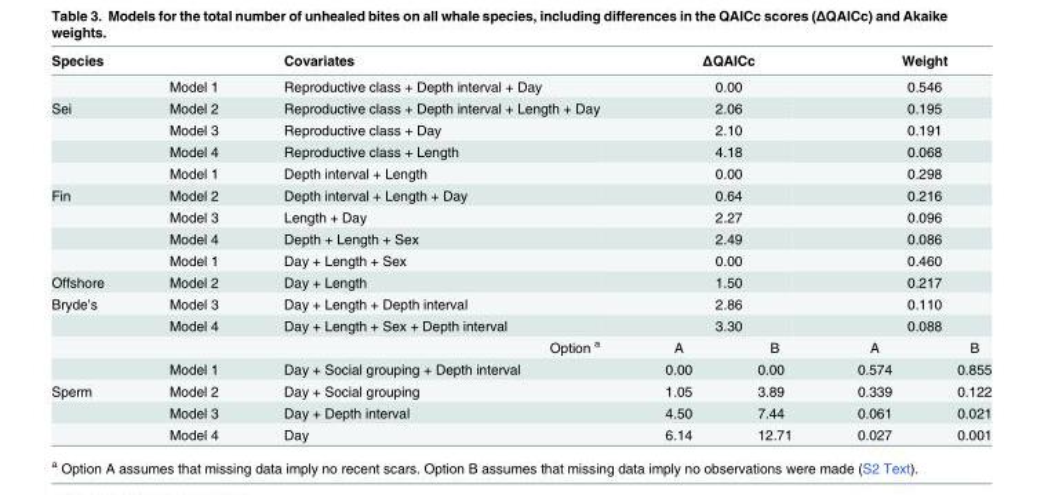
<table><thead><tr><td>Species</td><td></td><td>Covariates</td><td colspan="2">ΔQAICc</td><td colspan="2">Weight</td></tr></thead><tbody><tr><td></td><td>Model 1</td><td>Reproductive class + Depth interval + Day</td><td colspan="2">0.00</td><td colspan="2">0.546</td></tr><tr><td rowspan="4">Sei</td><td>Model 2</td><td>Reproductive class + Depth interval + Length + Day</td><td colspan="2">2.06</td><td colspan="2">0.195</td></tr><tr><td>Model 3</td><td>Reproductive class + Day</td><td colspan="2">2.10</td><td colspan="2">0.191</td></tr><tr><td>Model 4</td><td>Reproductive class + Length</td><td colspan="2">4.18</td><td colspan="2">0.068</td></tr><tr><td>Model 1</td><td>Depth interval + Length</td><td colspan="2">0.00</td><td colspan="2">0.298</td></tr><tr><td rowspan="4">Fin</td><td>Model 2</td><td>Depth interval + Length + Day</td><td colspan="2">0.64</td><td colspan="2">0.216</td></tr><tr><td>Model 3</td><td>Length + Day</td><td colspan="2">2.27</td><td colspan="2">0.096</td></tr><tr><td>Model 4</td><td>Depth + Length + Sex</td><td colspan="2">2.49</td><td colspan="2">0.086</td></tr><tr><td>Model 1</td><td>Day + Length + Sex</td><td colspan="2">0.00</td><td colspan="2">0.460</td></tr><tr><td>Offshore</td><td>Model 2</td><td>Day + Length</td><td colspan="2">1.50</td><td colspan="2">0.217</td></tr><tr><td rowspan="4">Bryde’s</td><td>Model 3</td><td>Day + Length + Depth interval</td><td colspan="2">2.86</td><td colspan="2">0.110</td></tr><tr><td>Model 4</td><td>Day + Length + Sex + Depth interval</td><td colspan="2">3.30</td><td colspan="2">0.088</td></tr><tr><td></td><td>Option <sup>a</sup></td><td>A</td><td>B</td><td>A</td><td>B</td></tr><tr><td>Model 1</td><td>Day + Social grouping + Depth interval</td><td>0.00</td><td>0.00</td><td>0.574</td><td>0.855</td></tr><tr><td rowspan="3">Sperm</td><td>Model 2</td><td>Day + Social grouping</td><td>1.05</td><td>3.89</td><td>0.339</td><td>0.122</td></tr><tr><td>Model 3</td><td>Day + Depth interval</td><td>4.50</td><td>7.44</td><td>0.061</td><td>0.021</td></tr><tr><td>Model 4</td><td>Day</td><td>6.14</td><td>12.71</td><td>0.027</td><td>0.001</td></tr></tbody></table>